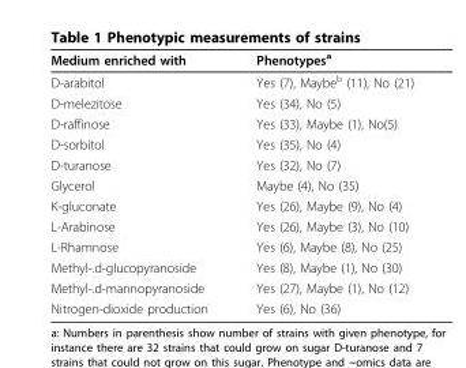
<table><thead><tr><td>Medium enriched with</td><td>Phenotypes<sup>a</sup></td></tr></thead><tbody><tr><td>D-arabitol</td><td>Yes (7), Maybe<sup>b</sup> (11), No (21)</td></tr><tr><td>D-melezitose</td><td>Yes (34), No (5)</td></tr><tr><td>D-raffinose</td><td>Yes (33), Maybe (1), No(5)</td></tr><tr><td>D-sorbitol</td><td>Yes (35), No (4)</td></tr><tr><td>D-turanose</td><td>Yes (32), No (7)</td></tr><tr><td>Glycerol</td><td>Maybe (4), No (35)</td></tr><tr><td>K-gluconate</td><td>Yes (26), Maybe (9), No (4)</td></tr><tr><td>L-Arabinose</td><td>Yes (26), Maybe (3), No (10)</td></tr><tr><td>L-Rhamnose</td><td>Yes (6), Maybe (8), No (25)</td></tr><tr><td>Methyl-.d-glucopyranoside</td><td>Yes (8), Maybe (1), No (30)</td></tr><tr><td>Methyl-.d-mannopyranoside</td><td>Yes (27), Maybe (1), No (12)</td></tr><tr><td>Nitrogen-dioxide production</td><td>Yes (6), No (36)</td></tr></tbody></table>